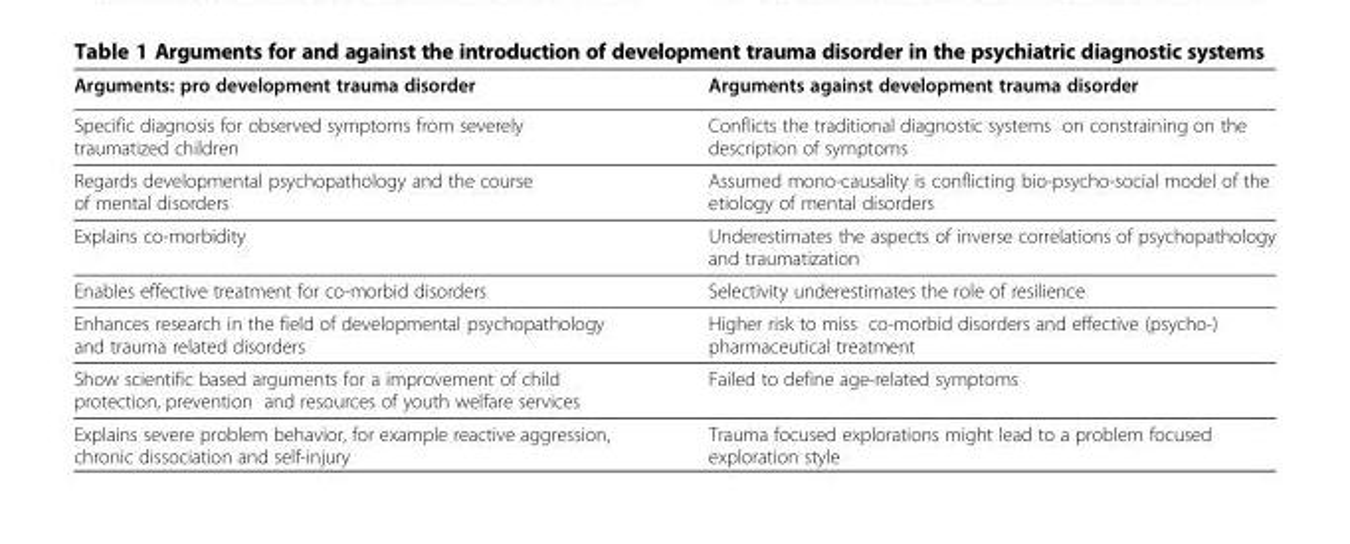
<table><thead><tr><td>Arguments: pro development trauma disorder</td><td>Arguments against development trauma disorder</td></tr></thead><tbody><tr><td>Specific diagnosis for observed symptoms from severely traumatized children</td><td>Conflicts the traditional diagnostic systems on constraining on the description of symptoms</td></tr><tr><td>Regards developmental psychopathology and the course of mental disorders</td><td>Assumed mono-causality is conflicting bio-psycho-social model of the etiology of mental disorders</td></tr><tr><td>Explains co-morbidity</td><td>Underestimates the aspects of inverse correlations of psychopathology and traumatization</td></tr><tr><td>Enables effective treatment for co-morbid disorders</td><td>Selectivity underestimates the role of resilience</td></tr><tr><td>Enhances research in the field of developmental psychopathology and trauma related disorders</td><td>Higher risk to miss co-morbid disorders and effective (psycho-) pharmaceutical treatment</td></tr><tr><td>Show scientific based arguments for a improvement of child protection, prevention and resources of youth welfare services</td><td>Failed to define age-related symptoms</td></tr><tr><td>Explains severe problem behavior, for example reactive aggression, chronic dissociation and self-injury</td><td>Trauma focused explorations might lead to a problem focused exploration style</td></tr></tbody></table>